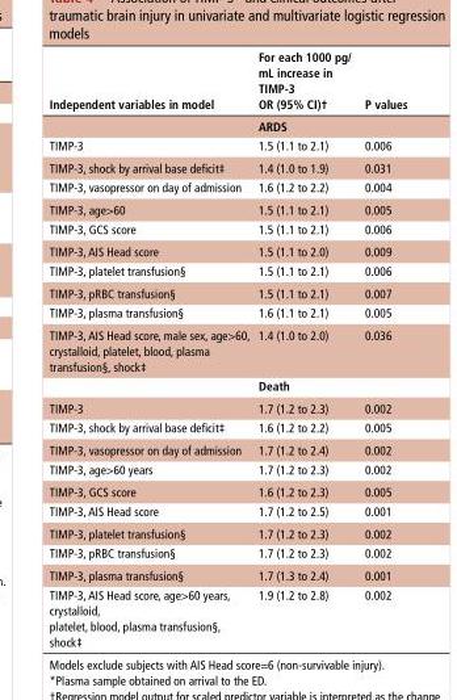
<table><thead><tr><td>Independent variables in model</td><td>For each 1000 pg/ mL increase in TImP-3 or (95% CI)†</td><td>P values</td></tr></thead><tbody><tr><td></td><td>Ards</td><td></td></tr><tr><td>TIMP-3</td><td>1.5 (1.1 to 2.1)</td><td>0.006</td></tr><tr><td>TIMP-3, shock by arrival base deficit‡</td><td>1.4 (1.0 to 1.9)</td><td>0.031</td></tr><tr><td>TIMP-3, vasopressor on day of admission</td><td>1.6 (1.2 to 2.2)</td><td>0.004</td></tr><tr><td>TIMP-3, age&gt;60</td><td>1.5 (1.1 to 2.1)</td><td>0.005</td></tr><tr><td>TIMP-3, GCS score</td><td>1.5 (1.1 to 2.1)</td><td>0.006</td></tr><tr><td>TIMP-3, AIS Head score</td><td>1.5 (1.1 to 2.0)</td><td>0.009</td></tr><tr><td>TIMP-3, platelet transfusion§</td><td>1.5 (1.1 to 2.1)</td><td>0.006</td></tr><tr><td>TIMP-3, pRBC transfusion§</td><td>1.5 (1.1 to 2.1)</td><td>0.007</td></tr><tr><td>TIMP-3, plasma transfusion§</td><td>1.6 (1.1 to 2.1)</td><td>0.005</td></tr><tr><td rowspan="2">TIMP-3, AIS Head score, male sex, age&gt;60, crystalloid, platelet, blood, plasma transfusion§, shock‡</td><td>1.4 (1.0 to 2.0)</td><td>0.036</td></tr><tr><td>death</td><td></td></tr><tr><td>TIMP-3</td><td>1.7 (1.2 to 2.3)</td><td>0.002</td></tr><tr><td>TIMP-3, shock by arrival base deficit‡</td><td>1.6 (1.2 to 2.2)</td><td>0.005</td></tr><tr><td>TIMP-3, vasopressor on day of admission</td><td>1.7 (1.2 to 2.4)</td><td>0.002</td></tr><tr><td>TIMP-3, age&gt;60 years</td><td>1.7 (1.2 to 2.3)</td><td>0.002</td></tr><tr><td>TIMP-3, GCS score</td><td>1.6 (1.2 to 2.3)</td><td>0.005</td></tr><tr><td>TIMP-3, AIS Head score</td><td>1.7 (1.2 to 2.5)</td><td>0.001</td></tr><tr><td>TIMP-3, platelet transfusion§</td><td>1.7 (1.2 to 2.3)</td><td>0.002</td></tr><tr><td>TIMP-3, pRBC transfusion§</td><td>1.7 (1.2 to 2.3)</td><td>0.002</td></tr><tr><td>TIMP-3, plasma transfusion§</td><td>1.7 (1.3 to 2.4)</td><td>0.001</td></tr><tr><td>TIMP-3, AIS Head score, age&gt;60 years, crystalloid, platelet, blood, plasma transfusion§, shock‡</td><td>1.9 (1.2 to 2.8)</td><td>0.002</td></tr></tbody></table>